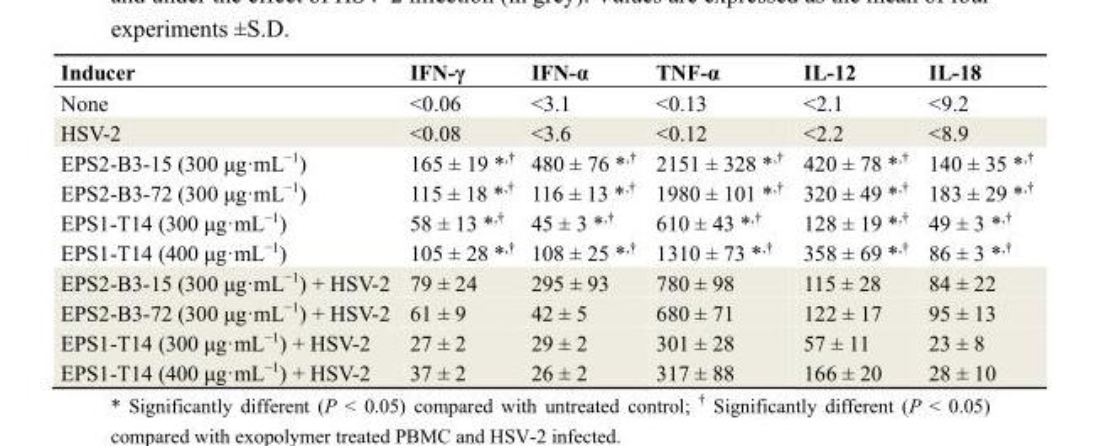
<table><thead><tr><td>Inducer</td><td>IFN-γ</td><td>IFN-α</td><td>TNF-α</td><td>IL-12</td><td>IL-18</td></tr></thead><tbody><tr><td>None</td><td>˂0.06</td><td>˂3.1</td><td>˂0.13</td><td>˂2.1</td><td>˂9.2</td></tr><tr><td>HSV-2</td><td>˂0.08</td><td>˂3.6</td><td>˂0.12</td><td>˂2.2</td><td>˂8.9</td></tr><tr><td>EPS2-B3-15 (300 μg·mL<sup>−1</sup>)</td><td>165 ± 19 *<sup>,†</sup></td><td>480 ± 76 *<sup>,†</sup></td><td>2151 ± 328 *<sup>,†</sup></td><td>420 ± 78 *<sup>,†</sup></td><td>140 ± 35 *<sup>,†</sup></td></tr><tr><td>EPS2-B3-72 (300 μg·mL<sup>−1</sup>)</td><td>115 ± 18 *<sup>,†</sup></td><td>116 ± 13 *<sup>,†</sup></td><td>1980 ± 101 *<sup>,†</sup></td><td>320 ± 49 *<sup>,†</sup></td><td>183 ± 29 *<sup>,†</sup></td></tr><tr><td>EPS1-T14 (300 μg·mL<sup>−1</sup>)</td><td>58 ± 13 *<sup>,†</sup></td><td>45 ± 3 *<sup>,†</sup></td><td>610 ± 43 *<sup>,†</sup></td><td>128 ± 19 *<sup>,†</sup></td><td>49 ± 3 *<sup>,†</sup></td></tr><tr><td>EPS1-T14 (400 μg·mL<sup>−1</sup>)</td><td>105 ± 28 *<sup>,†</sup></td><td>108 ± 25 *<sup>,†</sup></td><td>1310 ± 73 *<sup>,†</sup></td><td>358 ± 69 *<sup>,†</sup></td><td>86 ± 3 *<sup>,†</sup></td></tr><tr><td>EPS2-B3-15 (300 μg·mL<sup>−1</sup>) + HSV-2</td><td>79 ± 24</td><td>295 ± 93</td><td>780 ± 98</td><td>115 ± 28</td><td>84 ± 22</td></tr><tr><td>EPS2-B3-72 (300 μg·mL<sup>−1</sup>) + HSV-2</td><td>61 ± 9</td><td>42 ± 5</td><td>680 ± 71</td><td>122 ± 17</td><td>95 ± 13</td></tr><tr><td>EPS1-T14 (300 μg·mL<sup>−1</sup>) + HSV-2</td><td>27 ± 2</td><td>29 ± 2</td><td>301 ± 28</td><td>57 ± 11</td><td>23 ± 8</td></tr><tr><td>EPS1-T14 (400 μg·mL<sup>−1</sup>) + HSV-2</td><td>37 ± 2</td><td>26 ± 2</td><td>317 ± 88</td><td>166 ± 20</td><td>28 ± 10</td></tr></tbody></table>